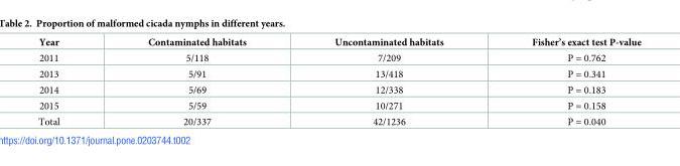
<table><thead><tr><td>Year</td><td>Contaminated habitats</td><td>Uncontaminated habitats</td><td>Fisher’s exact test P-value</td></tr></thead><tbody><tr><td>2011</td><td>5/118</td><td>7/209</td><td>P = 0.762</td></tr><tr><td>2013</td><td>5/91</td><td>13/418</td><td>P = 0.341</td></tr><tr><td>2014</td><td>5/69</td><td>12/338</td><td>P = 0.183</td></tr><tr><td>2015</td><td>5/59</td><td>10/271</td><td>P = 0.158</td></tr><tr><td>Total</td><td>20/337</td><td>42/1236</td><td>P = 0.040</td></tr></tbody></table>